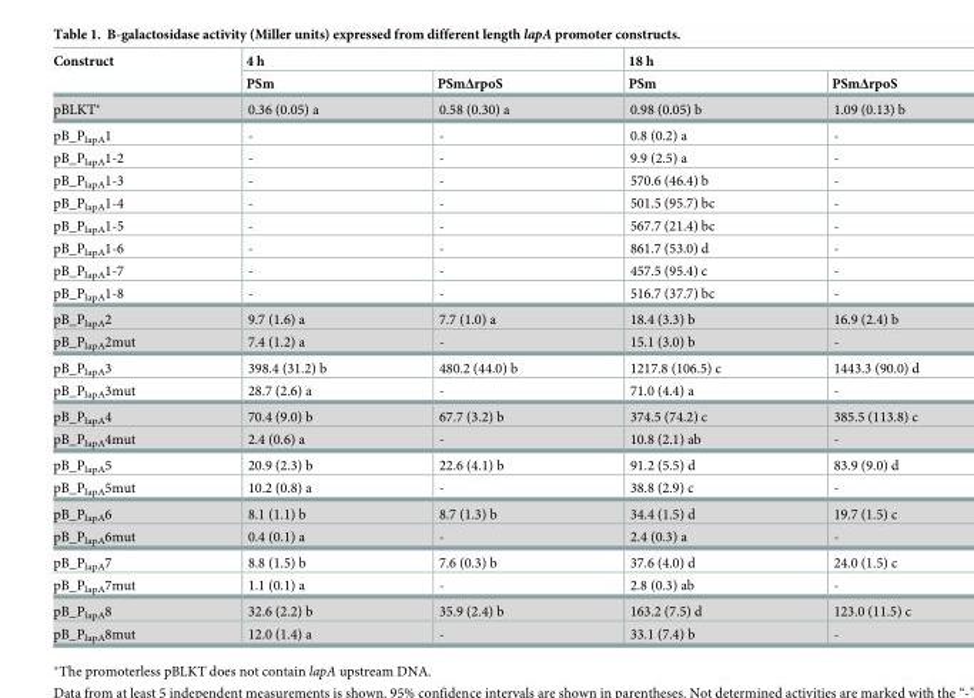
<table><thead><tr><td rowspan="2">Construct</td><td colspan="2">4 h</td><td colspan="2">18 h</td></tr><tr><td>PSm</td><td>PSmΔrpoS</td><td>PSm</td><td>PSmΔrpoS</td></tr></thead><tbody><tr><td>pBLKT*</td><td>0.36 (0.05) a</td><td>0.58 (0.30) a</td><td>0.98 (0.05) b</td><td>1.09 (0.13) b</td></tr><tr><td>pB_P<sub>lapA</sub>1</td><td>-</td><td>-</td><td>0.8 (0.2) a</td><td>-</td></tr><tr><td>pB_P<sub>lapA</sub>1-2</td><td>-</td><td>-</td><td>9.9 (2.5) a</td><td>-</td></tr><tr><td>pB_P<sub>lapA</sub>1-3</td><td>-</td><td>-</td><td>570.6 (46.4) b</td><td>-</td></tr><tr><td>pB_P<sub>lapA</sub>1-4</td><td>-</td><td>-</td><td>501.5 (95.7) bc</td><td>-</td></tr><tr><td>pB_P<sub>lapA</sub>1-5</td><td>-</td><td>-</td><td>567.7 (21.4) bc</td><td>-</td></tr><tr><td>pB_P<sub>lapA</sub>1-6</td><td>-</td><td>-</td><td>861.7 (53.0) d</td><td>-</td></tr><tr><td>pB_P<sub>lapA</sub>1-7</td><td>-</td><td>-</td><td>457.5 (95.4) c</td><td>-</td></tr><tr><td>pB_P<sub>lapA</sub>1-8</td><td>-</td><td>-</td><td>516.7 (37.7) bc</td><td>-</td></tr><tr><td>pB_P<sub>lapA</sub>2</td><td>9.7 (1.6) a</td><td>7.7 (1.0) a</td><td>18.4 (3.3) b</td><td>16.9 (2.4) b</td></tr><tr><td>pB_P<sub>lapA</sub>2mut</td><td>7.4 (1.2) a</td><td>-</td><td>15.1 (3.0) b</td><td>-</td></tr><tr><td>pB_P<sub>lapA</sub>3</td><td>398.4 (31.2) b</td><td>480.2 (44.0) b</td><td>1217.8 (106.5) c</td><td>1443.3 (90.0) d</td></tr><tr><td>pB_P<sub>lapA</sub>3mut</td><td>28.7 (2.6) a</td><td>-</td><td>71.0 (4.4) a</td><td>-</td></tr><tr><td>pB_P<sub>lapA</sub>4</td><td>70.4 (9.0) b</td><td>67.7 (3.2) b</td><td>374.5 (74.2) c</td><td>385.5 (113.8) c</td></tr><tr><td>pB_P<sub>lapA</sub>4mut</td><td>2.4 (0.6) a</td><td>-</td><td>10.8 (2.1) ab</td><td>-</td></tr><tr><td>pB_P<sub>lapA</sub>5</td><td>20.9 (2.3) b</td><td>22.6 (4.1) b</td><td>91.2 (5.5) d</td><td>83.9 (9.0) d</td></tr><tr><td>pB_P<sub>lapA</sub>5mut</td><td>10.2 (0.8) a</td><td>-</td><td>38.8 (2.9) c</td><td>-</td></tr><tr><td>pB_P<sub>lapA</sub>6</td><td>8.1 (1.1) b</td><td>8.7 (1.3) b</td><td>34.4 (1.5) d</td><td>19.7 (1.5) c</td></tr><tr><td>pB_P<sub>lapA</sub>6mut</td><td>0.4 (0.1) a</td><td>-</td><td>2.4 (0.3) a</td><td>-</td></tr><tr><td>pB_P<sub>lapA</sub>7</td><td>8.8 (1.5) b</td><td>7.6 (0.3) b</td><td>37.6 (4.0) d</td><td>24.0 (1.5) c</td></tr><tr><td>pB_P<sub>lapA</sub>7mut</td><td>1.1 (0.1) a</td><td>-</td><td>2.8 (0.3) ab</td><td>-</td></tr><tr><td>pB_P<sub>lapA</sub>8</td><td>32.6 (2.2) b</td><td>35.9 (2.4) b</td><td>163.2 (7.5) d</td><td>123.0 (11.5) c</td></tr><tr><td>pB_P<sub>lapA</sub>8mut</td><td>12.0 (1.4) a</td><td>-</td><td>33.1 (7.4) b</td><td>-</td></tr></tbody></table>